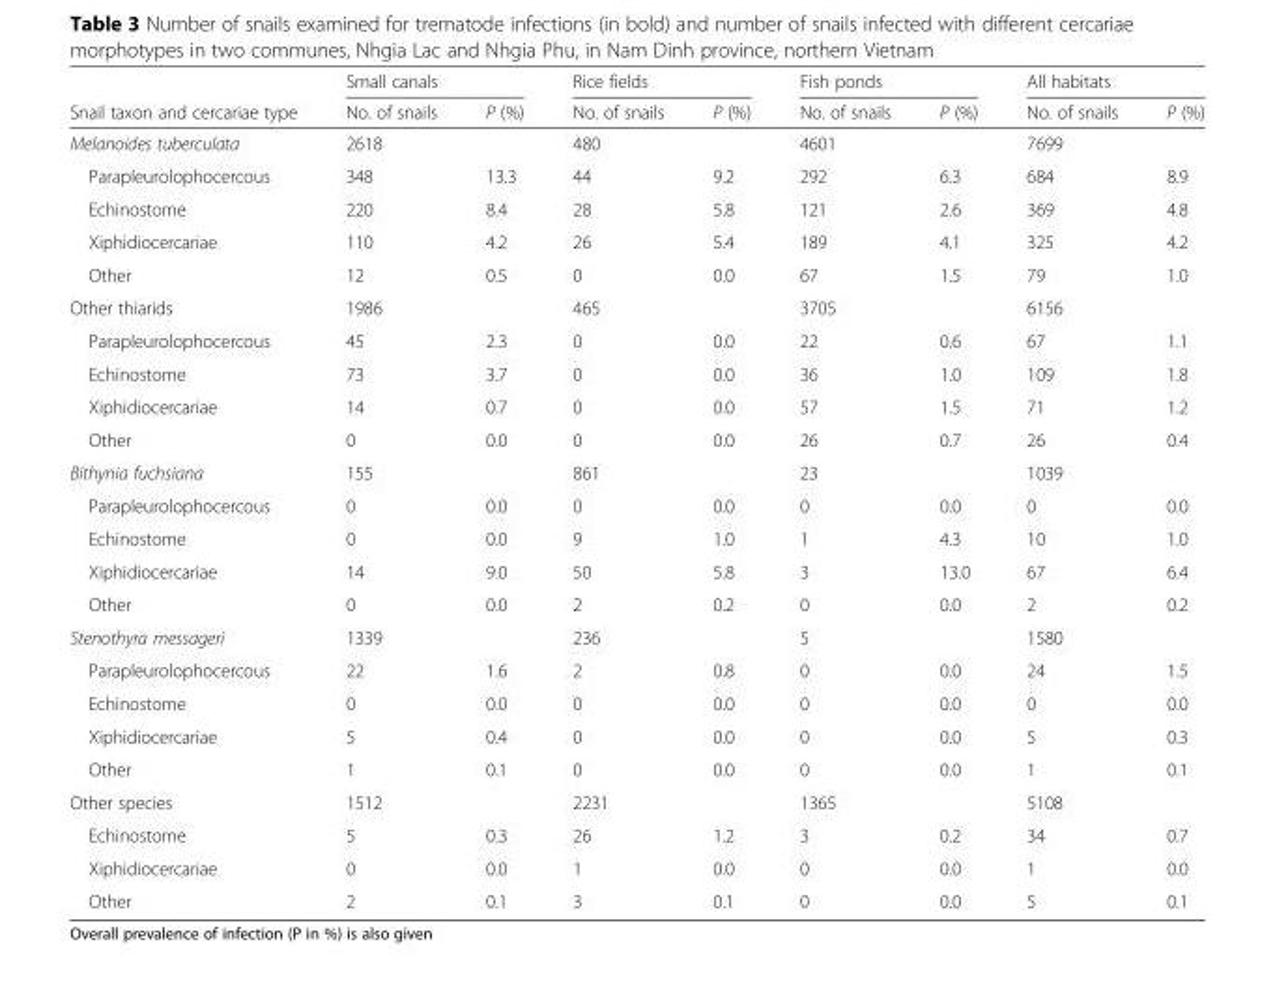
<table><thead><tr><td rowspan="2">Snail taxon and cercariae type</td><td colspan="2">Small canals</td><td colspan="2">Rice fields</td><td colspan="2">Fish ponds</td><td colspan="2">All habitats</td></tr><tr><td>No. of snails</td><td>P (%)</td><td>No. of snails</td><td>P (%)</td><td>No. of snails</td><td>P (%)</td><td>No. of snails</td><td>P (%)</td></tr></thead><tbody><tr><td>Melanoides tuberculata</td><td>2618</td><td></td><td>480</td><td></td><td>4601</td><td></td><td>7699</td><td></td></tr><tr><td>Parapleurolophocercous</td><td>348</td><td>13.3</td><td>44</td><td>9.2</td><td>292</td><td>6.3</td><td>684</td><td>8.9</td></tr><tr><td>Echinostome</td><td>220</td><td>8.4</td><td>28</td><td>5.8</td><td>121</td><td>2.6</td><td>369</td><td>4.8</td></tr><tr><td>Xiphidiocercariae</td><td>110</td><td>4.2</td><td>26</td><td>5.4</td><td>189</td><td>4.1</td><td>325</td><td>4.2</td></tr><tr><td>Other</td><td>12</td><td>0.5</td><td>0</td><td>0.0</td><td>67</td><td>1.5</td><td>79</td><td>1.0</td></tr><tr><td>Other thiarids</td><td>1986</td><td></td><td>465</td><td></td><td>3705</td><td></td><td>6156</td><td></td></tr><tr><td>Parapleurolophocercous</td><td>45</td><td>2.3</td><td>0</td><td>0.0</td><td>22</td><td>0.6</td><td>67</td><td>1.1</td></tr><tr><td>Echinostome</td><td>73</td><td>3.7</td><td>0</td><td>0.0</td><td>36</td><td>1.0</td><td>109</td><td>1.8</td></tr><tr><td>Xiphidiocercariae</td><td>14</td><td>0.7</td><td>0</td><td>0.0</td><td>57</td><td>1.5</td><td>71</td><td>1.2</td></tr><tr><td>Other</td><td>0</td><td>0.0</td><td>0</td><td>0.0</td><td>26</td><td>0.7</td><td>26</td><td>0.4</td></tr><tr><td>Bithynia fuchsiana</td><td>155</td><td></td><td>861</td><td></td><td>23</td><td></td><td>1039</td><td></td></tr><tr><td>Parapleurolophocercous</td><td>0</td><td>0.0</td><td>0</td><td>0.0</td><td>0</td><td>0.0</td><td>0</td><td>0.0</td></tr><tr><td>Echinostome</td><td>0</td><td>0.0</td><td>9</td><td>1.0</td><td>1</td><td>4.3</td><td>10</td><td>1.0</td></tr><tr><td>Xiphidiocercariae</td><td>14</td><td>9.0</td><td>50</td><td>5.8</td><td>3</td><td>13.0</td><td>67</td><td>6.4</td></tr><tr><td>Other</td><td>0</td><td>0.0</td><td>2</td><td>0.2</td><td>0</td><td>0.0</td><td>2</td><td>0.2</td></tr><tr><td>Stenothyra messageri</td><td>1339</td><td></td><td>236</td><td></td><td>5</td><td></td><td>1580</td><td></td></tr><tr><td>Parapleurolophocercous</td><td>22</td><td>1.6</td><td>2</td><td>0.8</td><td>0</td><td>0.0</td><td>24</td><td>1.5</td></tr><tr><td>Echinostome</td><td>0</td><td>0.0</td><td>0</td><td>0.0</td><td>0</td><td>0.0</td><td>0</td><td>0.0</td></tr><tr><td>Xiphidiocercariae</td><td>5</td><td>0.4</td><td>0</td><td>0.0</td><td>0</td><td>0.0</td><td>5</td><td>0.3</td></tr><tr><td>Other</td><td>1</td><td>0.1</td><td>0</td><td>0.0</td><td>0</td><td>0.0</td><td>1</td><td>0.1</td></tr><tr><td>Other species</td><td>1512</td><td></td><td>2231</td><td></td><td>1365</td><td></td><td>5108</td><td></td></tr><tr><td>Echinostome</td><td>5</td><td>0.3</td><td>26</td><td>1.2</td><td>3</td><td>0.2</td><td>34</td><td>0.7</td></tr><tr><td>Xiphidiocercariae</td><td>0</td><td>0.0</td><td>1</td><td>0.0</td><td>0</td><td>0.0</td><td>1</td><td>0.0</td></tr><tr><td>Other</td><td>2</td><td>0.1</td><td>3</td><td>0.1</td><td>0</td><td>0.0</td><td>5</td><td>0.1</td></tr></tbody></table>